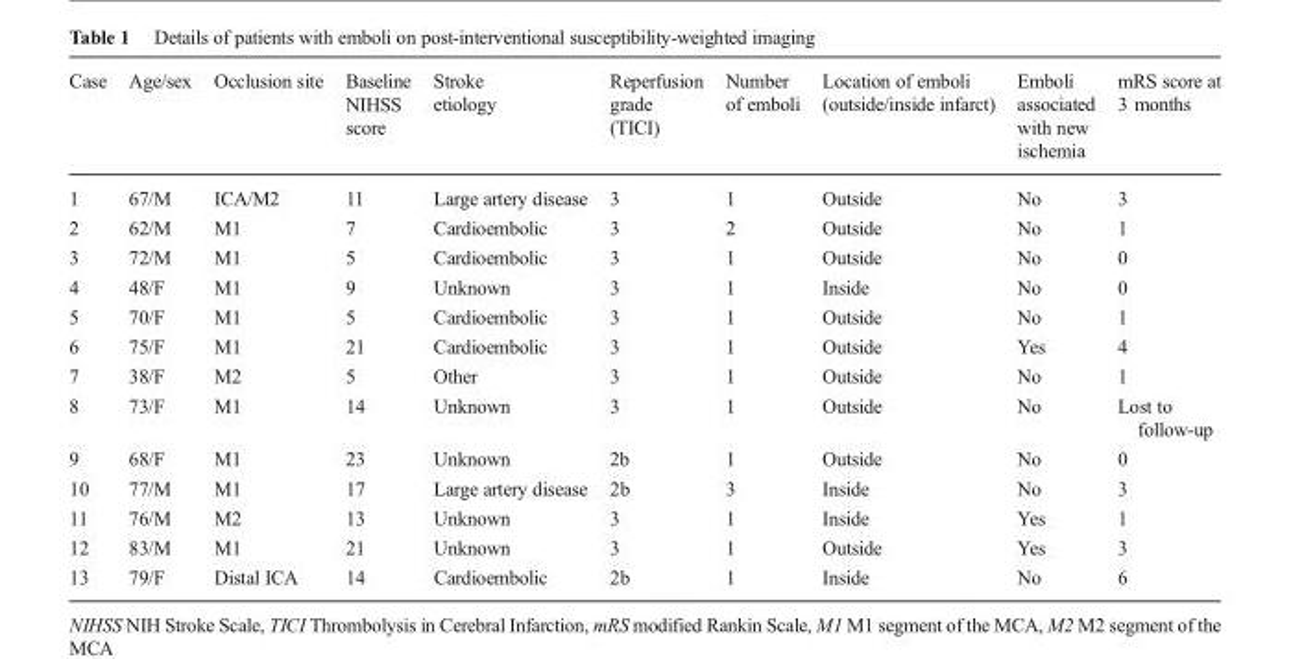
<table><thead><tr><td>Case</td><td>Age/sex</td><td>Occlusion site</td><td>Baseline NIHSS score</td><td>Stroke etiology</td><td>Reperfusion grade (TICI)</td><td>Number of emboli</td><td>Location of emboli (outside/inside infarct)</td><td>Emboli associated with new ischemia</td><td>mRS score at 3 months</td></tr></thead><tbody><tr><td>1</td><td>67/M</td><td>ICA/M2</td><td>11</td><td>Large artery disease</td><td>3</td><td>1</td><td>Outside</td><td>No</td><td>3</td></tr><tr><td>2</td><td>62/M</td><td>M1</td><td>7</td><td>Cardioembolic</td><td>3</td><td>2</td><td>Outside</td><td>No</td><td>1</td></tr><tr><td>3</td><td>72/M</td><td>M1</td><td>5</td><td>Cardioembolic</td><td>3</td><td>1</td><td>Outside</td><td>No</td><td>0</td></tr><tr><td>4</td><td>48/F</td><td>M1</td><td>9</td><td>Unknown</td><td>3</td><td>1</td><td>Inside</td><td>No</td><td>0</td></tr><tr><td>5</td><td>70/F</td><td>M1</td><td>5</td><td>Cardioembolic</td><td>3</td><td>1</td><td>Outside</td><td>No</td><td>1</td></tr><tr><td>6</td><td>75/F</td><td>M1</td><td>21</td><td>Cardioembolic</td><td>3</td><td>1</td><td>Outside</td><td>Yes</td><td>4</td></tr><tr><td>7</td><td>38/F</td><td>M2</td><td>5</td><td>Other</td><td>3</td><td>1</td><td>Outside</td><td>No</td><td>1</td></tr><tr><td>8</td><td>73/F</td><td>M1</td><td>14</td><td>Unknown</td><td>3</td><td>1</td><td>Outside</td><td>No</td><td>Lost to follow-up</td></tr><tr><td>9</td><td>68/F</td><td>M1</td><td>23</td><td>Unknown</td><td>2b</td><td>1</td><td>Outside</td><td>No</td><td>0</td></tr><tr><td>10</td><td>77/M</td><td>M1</td><td>17</td><td>Large artery disease</td><td>2b</td><td>3</td><td>Inside</td><td>No</td><td>3</td></tr><tr><td>11</td><td>76/M</td><td>M2</td><td>13</td><td>Unknown</td><td>3</td><td>1</td><td>Inside</td><td>Yes</td><td>1</td></tr><tr><td>12</td><td>83/M</td><td>M1</td><td>21</td><td>Unknown</td><td>3</td><td>1</td><td>Outside</td><td>Yes</td><td>3</td></tr><tr><td>13</td><td>79/F</td><td>Distal ICA</td><td>14</td><td>Cardioembolic</td><td>2b</td><td>1</td><td>Inside</td><td>No</td><td>6</td></tr></tbody></table>